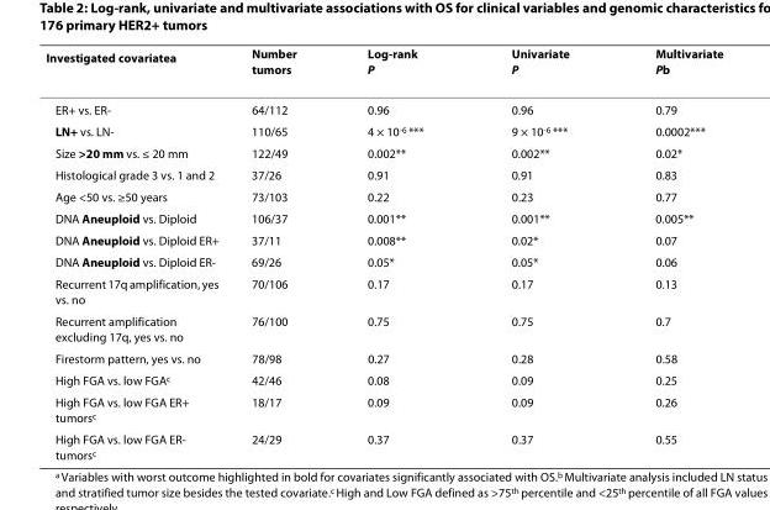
<table><thead><tr><td>Investigated covariate<sup>a</sup></td><td>Number tumors</td><td>Log-rank P</td><td>Univariate P</td><td>Multivariate P<sup>b</sup></td></tr></thead><tbody><tr><td>ER+ vs. ER-</td><td>64/112</td><td>0.96</td><td>0.96</td><td>0.79</td></tr><tr><td>LN+ vs. LN-</td><td>110/65</td><td>4 × 10<sup>-6</sup> ***</td><td>9 × 10<sup>-6</sup> ***</td><td>0.0002***</td></tr><tr><td>Size &gt;20 mm vs. ≤ 20 mm</td><td>122/49</td><td>0.002**</td><td>0.002**</td><td>0.02*</td></tr><tr><td>Histological grade 3 vs. 1 and 2</td><td>37/26</td><td>0.91</td><td>0.91</td><td>0.83</td></tr><tr><td>Age &lt;50 vs. ≥50 years</td><td>73/103</td><td>0.22</td><td>0.23</td><td>0.77</td></tr><tr><td>DNA Aneuploid vs. Diploid</td><td>106/37</td><td>0.001**</td><td>0.001**</td><td>0.005**</td></tr><tr><td>DNA Aneuploid vs. Diploid ER+</td><td>37/11</td><td>0.008**</td><td>0.02*</td><td>0.07</td></tr><tr><td>DNA Aneuploid vs. Diploid ER-</td><td>69/26</td><td>0.05*</td><td>0.05*</td><td>0.06</td></tr><tr><td>Recurrent 17q amplification, yes vs. no</td><td>70/106</td><td>0.17</td><td>0.17</td><td>0.13</td></tr><tr><td>Recurrent amplification excluding 17q, yes vs. no</td><td>76/100</td><td>0.75</td><td>0.75</td><td>0.7</td></tr><tr><td>Firestorm pattern, yes vs. no</td><td>78/98</td><td>0.27</td><td>0.28</td><td>0.58</td></tr><tr><td>High FGA vs. low FGA<sup>c</sup></td><td>42/46</td><td>0.08</td><td>0.09</td><td>0.25</td></tr><tr><td>High FGA vs. low FGA ER+ tumors<sup>c</sup></td><td>18/17</td><td>0.09</td><td>0.09</td><td>0.26</td></tr><tr><td>High FGA vs. low FGA ER- tumors<sup>c</sup></td><td>24/29</td><td>0.37</td><td>0.37</td><td>0.55</td></tr></tbody></table>